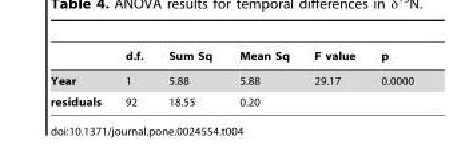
<table><thead><tr><td></td><td>d.f.</td><td>Sum Sq</td><td>Mean Sq</td><td>F value</td><td>p</td></tr></thead><tbody><tr><td>Year</td><td>1</td><td>5.88</td><td>5.88</td><td>29.17</td><td>0.0000</td></tr><tr><td>residuals</td><td>92</td><td>18.55</td><td>0.20</td><td></td><td></td></tr></tbody></table>